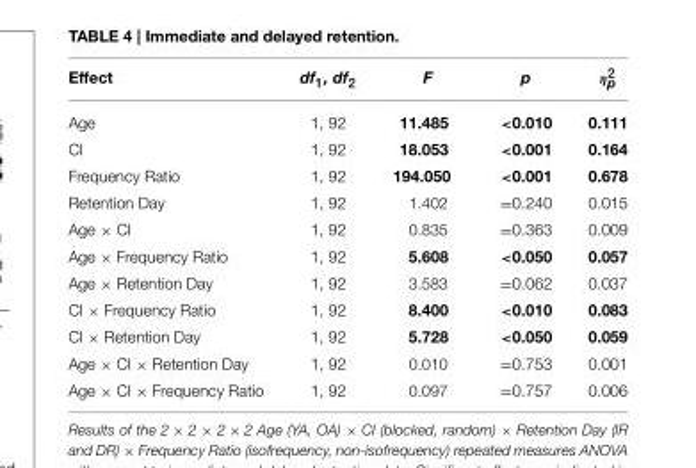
<table><thead><tr><td>Effect</td><td>df<sub>1</sub>, df<sub>2</sub></td><td>F</td><td>p</td><td>η<sup>2</sup><sub>p</sub></td></tr></thead><tbody><tr><td>Age</td><td>1, 92</td><td>11.485</td><td>&lt;0.010</td><td>0.111</td></tr><tr><td>CI</td><td>1, 92</td><td>18.053</td><td>&lt;0.001</td><td>0.164</td></tr><tr><td>Frequency Ratio</td><td>1, 92</td><td>194.050</td><td>&lt;0.001</td><td>0.678</td></tr><tr><td>Retention Day</td><td>1, 92</td><td>1.402</td><td>=0.240</td><td>0.015</td></tr><tr><td>Age × CI</td><td>1, 92</td><td>0.835</td><td>=0.363</td><td>0.009</td></tr><tr><td>Age × Frequency Ratio</td><td>1, 92</td><td>5.608</td><td>&lt;0.050</td><td>0.057</td></tr><tr><td>Age × Retention Day</td><td>1, 92</td><td>3.583</td><td>=0.062</td><td>0.037</td></tr><tr><td>CI × Frequency Ratio</td><td>1, 92</td><td>8.400</td><td>&lt;0.010</td><td>0.083</td></tr><tr><td>CI × Retention Day</td><td>1, 92</td><td>5.728</td><td>&lt;0.050</td><td>0.059</td></tr><tr><td>Age × CI × Retention Day</td><td>1, 92</td><td>0.010</td><td>=0.753</td><td>0.001</td></tr><tr><td>Age × CI × Frequency Ratio</td><td>1, 92</td><td>0.097</td><td>=0.757</td><td>0.006</td></tr></tbody></table>